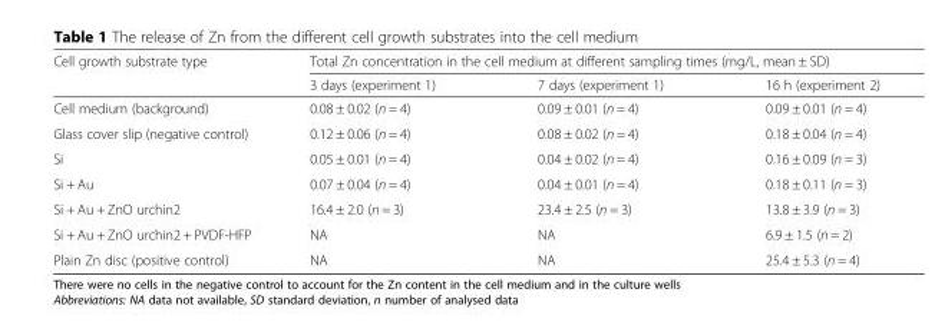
<table><thead><tr><td rowspan="2">Cell growth substrate type</td><td colspan="3">Total Zn concentration in the cell medium at different sampling times (mg/L, mean ± SD)</td></tr><tr><td>3 days (experiment 1)</td><td>7 days (experiment 1)</td><td>16 h (experiment 2)</td></tr></thead><tbody><tr><td>Cell medium (background)</td><td>0.08 ± 0.02 (n = 4)</td><td>0.09 ± 0.01 (n = 4)</td><td>0.09 ± 0.01 (n = 4)</td></tr><tr><td>Glass cover slip (negative control)</td><td>0.12 ± 0.06 (n = 4)</td><td>0.08 ± 0.02 (n = 4)</td><td>0.18 ± 0.04 (n = 4)</td></tr><tr><td>Si</td><td>0.05 ± 0.01 (n = 4)</td><td>0.04 ± 0.02 (n = 4)</td><td>0.16 ± 0.09 (n = 3)</td></tr><tr><td>Si + Au</td><td>0.07 ± 0.04 (n = 4)</td><td>0.04 ± 0.01 (n = 4)</td><td>0.18 ± 0.11 (n = 3)</td></tr><tr><td>Si + Au + ZnO urchin2</td><td>16.4 ± 2.0 (n = 3)</td><td>23.4 ± 2.5 (n = 3)</td><td>13.8 ± 3.9 (n = 3)</td></tr><tr><td>Si + Au + ZnO urchin2 + PVDF-HFP</td><td>NA</td><td>NA</td><td>6.9 ± 1.5 (n = 2)</td></tr><tr><td>Plain Zn disc (positive control)</td><td>NA</td><td>NA</td><td>25.4 ± 5.3 (n = 4)</td></tr></tbody></table>